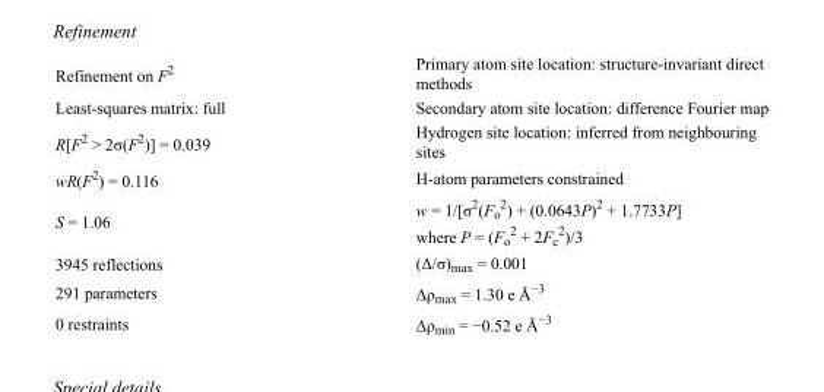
<table><tbody><tr><td>Refinement on F<sup>2</sup></td><td>Primary atom site location: structure-invariant direct methods</td></tr><tr><td>Least-squares matrix: full</td><td>Secondary atom site location: difference Fourier map</td></tr><tr><td>R[F<sup>2</sup> &gt; 2σ(F<sup>2</sup>)] = 0.039</td><td>Hydrogen site location: inferred from neighbouring sites</td></tr><tr><td>wR(F<sup>2</sup>) = 0.116</td><td>H-atom parameters constrained</td></tr><tr><td>S = 1.06</td><td>w = 1/[σ<sup>2</sup>(F<sub>o</sub> <sup>2</sup>) + (0.0643P)<sup>2</sup> + 1.7733P] where P = (F<sub>o</sub> <sup>2</sup> + 2F<sub>c</sub> <sup>2</sup>)/3</td></tr><tr><td>3945 reflections</td><td>(Δ/σ)<sub>max</sub> = 0.001</td></tr><tr><td>291 parameters</td><td>Δρ<sub>max</sub> = 1.30 e Å<sup>−3</sup></td></tr><tr><td>0 restraints</td><td>Δρ<sub>min</sub> = −0.52 e Å<sup>−3</sup></td></tr></tbody></table>